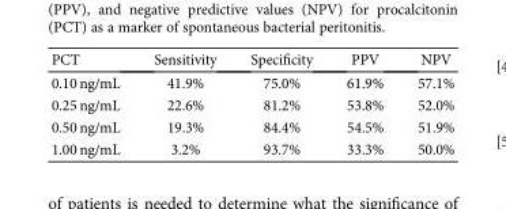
<table><thead><tr><td>PCT</td><td>Sensitivity</td><td>Specificity</td><td>PPV</td><td>NPV</td></tr></thead><tbody><tr><td>0.10 ng/mL</td><td>41.9%</td><td>75.0%</td><td>61.9%</td><td>57.1%</td></tr><tr><td>0.25 ng/mL</td><td>22.6%</td><td>81.2%</td><td>53.8%</td><td>52.0%</td></tr><tr><td>0.50 ng/mL</td><td>19.3%</td><td>84.4%</td><td>54.5%</td><td>51.9%</td></tr><tr><td>1.00 ng/mL</td><td>3.2%</td><td>93.7%</td><td>33.3%</td><td>50.0%</td></tr></tbody></table>